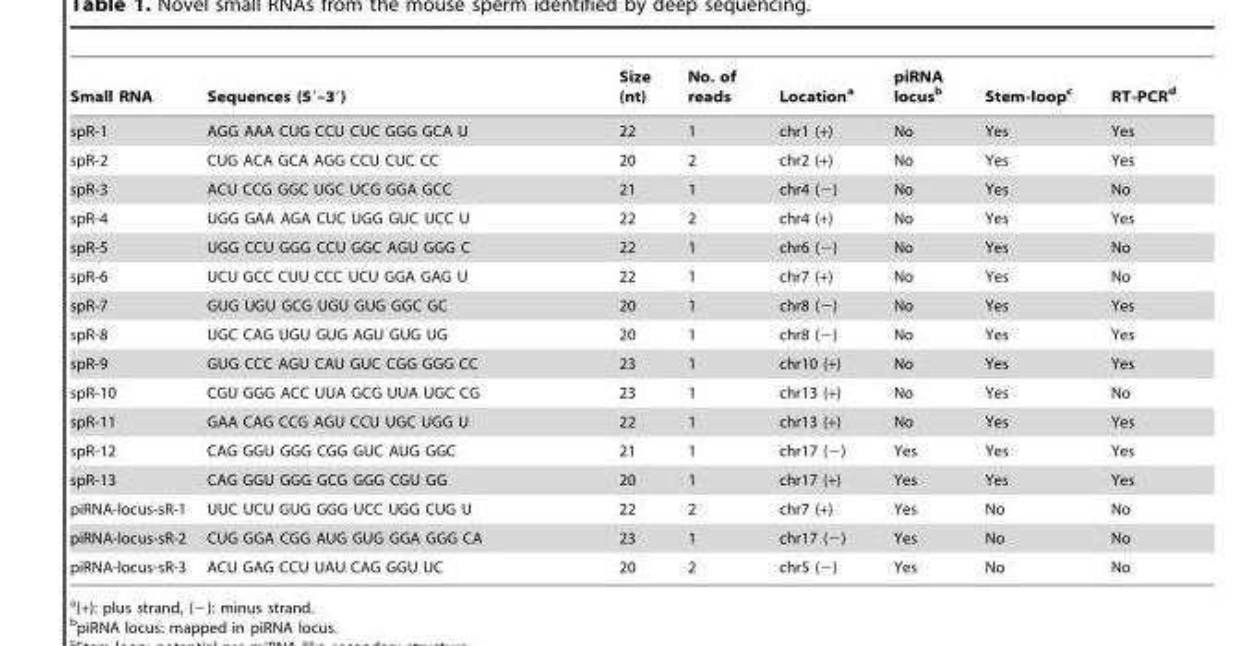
<table><thead><tr><td>Small RNA</td><td>Sequences (5′–3′)</td><td>Size (nt)</td><td>No. of reads</td><td>Location<sup>a</sup></td><td>piRNA locus<sup>b</sup></td><td>Stem-loop<sup>c</sup></td><td>RT-PCR<sup>d</sup></td></tr></thead><tbody><tr><td>spR-1</td><td>AGG AAA CUG CCU CUC GGG GCA U</td><td>22</td><td>1</td><td>chr1 (+)</td><td>No</td><td>Yes</td><td>Yes</td></tr><tr><td>spR-2</td><td>CUG ACA GCA AGG CCU CUC CC</td><td>20</td><td>2</td><td>chr2 (+)</td><td>No</td><td>Yes</td><td>Yes</td></tr><tr><td>spR-3</td><td>ACU CCG GGC UGC UCG GGA GCC</td><td>21</td><td>1</td><td>chr4 (−)</td><td>No</td><td>Yes</td><td>No</td></tr><tr><td>spR-4</td><td>UGG GAA AGA CUC UGG GUC UCC U</td><td>22</td><td>2</td><td>chr4 (+)</td><td>No</td><td>Yes</td><td>Yes</td></tr><tr><td>spR-5</td><td>UGG CCU GGG CCU GGC AGU GGG C</td><td>22</td><td>1</td><td>chr6 (−)</td><td>No</td><td>Yes</td><td>No</td></tr><tr><td>spR-6</td><td>UCU GCC CUU CCC UCU GGA GAG U</td><td>22</td><td>1</td><td>chr7 (+)</td><td>No</td><td>Yes</td><td>No</td></tr><tr><td>spR-7</td><td>GUG UGU GCG UGU GUG GGC GC</td><td>20</td><td>1</td><td>chr8 (−)</td><td>No</td><td>Yes</td><td>Yes</td></tr><tr><td>spR-8</td><td>UGC CAG UGU GUG AGU GUG UG</td><td>20</td><td>1</td><td>chr8 (−)</td><td>No</td><td>Yes</td><td>Yes</td></tr><tr><td>spR-9</td><td>GUG CCC AGU CAU GUC CGG GGG CC</td><td>23</td><td>1</td><td>chr10 (+)</td><td>No</td><td>Yes</td><td>Yes</td></tr><tr><td>spR-10</td><td>CGU GGG ACC UUA GCG UUA UGC CG</td><td>23</td><td>1</td><td>chr13 (+)</td><td>No</td><td>Yes</td><td>No</td></tr><tr><td>spR-11</td><td>GAA CAG CCG AGU CCU UGC UGG U</td><td>22</td><td>1</td><td>chr13 (+)</td><td>No</td><td>Yes</td><td>Yes</td></tr><tr><td>spR-12</td><td>CAG GGU GGG CGG GUC AUG GGC</td><td>21</td><td>1</td><td>chr17 (−)</td><td>Yes</td><td>Yes</td><td>Yes</td></tr><tr><td>spR-13</td><td>CAG GGU GGG GCG GGG CGU GG</td><td>20</td><td>1</td><td>chr17 (+)</td><td>Yes</td><td>Yes</td><td>Yes</td></tr><tr><td>piRNA-locus-sR-1</td><td>UUC UCU GUG GGG UCC UGG CUG U</td><td>22</td><td>2</td><td>chr7 (+)</td><td>Yes</td><td>No</td><td>No</td></tr><tr><td>piRNA-locus-sR-2</td><td>CUG GGA CGG AUG GUG GGA GGG CA</td><td>23</td><td>1</td><td>chr17 (−)</td><td>Yes</td><td>No</td><td>No</td></tr><tr><td>piRNA-locus-sR-3</td><td>ACU GAG CCU UAU CAG GGU UC</td><td>20</td><td>2</td><td>chr5 (−)</td><td>Yes</td><td>No</td><td>No</td></tr></tbody></table>